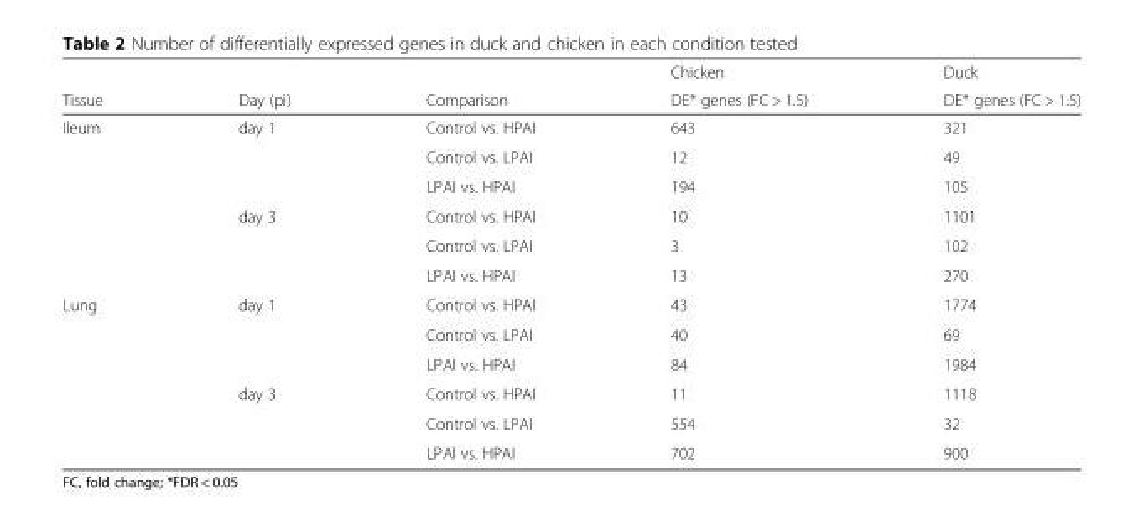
<table><thead><tr><td rowspan="2">Tissue</td><td rowspan="2">Day (pi)</td><td rowspan="2">Comparison</td><td rowspan="2">Chicken DE* genes (FC &gt; 1.5)</td><td rowspan="2">Duck DE* genes (FC &gt; 1.5)</td></tr><tr></tr></thead><tbody><tr><td rowspan="6">Ileum</td><td>day 1</td><td>Control vs. HPAI</td><td>643</td><td>321</td></tr><tr><td></td><td>Control vs. LPAI</td><td>12</td><td>49</td></tr><tr><td></td><td>LPAI vs. HPAI</td><td>194</td><td>105</td></tr><tr><td>day 3</td><td>Control vs. HPAI</td><td>10</td><td>1101</td></tr><tr><td></td><td>Control vs. LPAI</td><td>3</td><td>102</td></tr><tr><td></td><td>LPAI vs. HPAI</td><td>13</td><td>270</td></tr><tr><td rowspan="6">Lung</td><td>day 1</td><td>Control vs. HPAI</td><td>43</td><td>1774</td></tr><tr><td></td><td>Control vs. LPAI</td><td>40</td><td>69</td></tr><tr><td></td><td>LPAI vs. HPAI</td><td>84</td><td>1984</td></tr><tr><td>day 3</td><td>Control vs. HPAI</td><td>11</td><td>1118</td></tr><tr><td></td><td>Control vs. LPAI</td><td>554</td><td>32</td></tr><tr><td></td><td>LPAI vs. HPAI</td><td>702</td><td>900</td></tr></tbody></table>